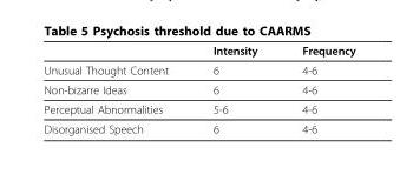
<table><thead><tr><td></td><td>Intensity</td><td>Frequency</td></tr></thead><tbody><tr><td>Unusual Thought Content</td><td>6</td><td>4-6</td></tr><tr><td>Non-bizarre Ideas</td><td>6</td><td>4-6</td></tr><tr><td>Perceptual Abnormalities</td><td>5-6</td><td>4-6</td></tr><tr><td>Disorganised Speech</td><td>6</td><td>4-6</td></tr></tbody></table>